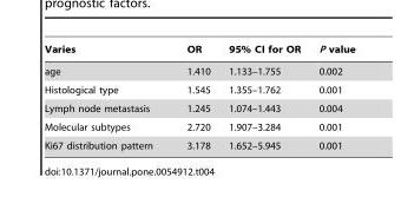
<table><thead><tr><td>Varies</td><td>OR</td><td>95% CI for OR</td><td>P value</td></tr></thead><tbody><tr><td>age</td><td>1.410</td><td>1.133–1.755</td><td>0.002</td></tr><tr><td>Histological type</td><td>1.545</td><td>1.355–1.762</td><td>0.001</td></tr><tr><td>Lymph node metastasis</td><td>1.245</td><td>1.074–1.443</td><td>0.004</td></tr><tr><td>Molecular subtypes</td><td>2.720</td><td>1.907–3.284</td><td>0.001</td></tr><tr><td>Ki67 distribution pattern</td><td>3.178</td><td>1.652–5.945</td><td>0.001</td></tr></tbody></table>